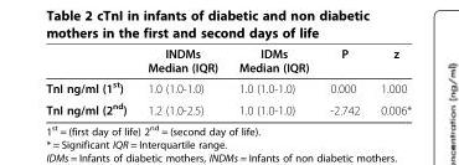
<table><thead><tr><td></td><td>INDMs Median (IQR)</td><td>IDMs Median (IQR)</td><td>P</td><td>z</td></tr></thead><tbody><tr><td>TnI ng/ml (1<sup>st</sup>)</td><td>1.0 (1.0-1.0)</td><td>1.0 (1.0-1.0)</td><td>0.000</td><td>1.000</td></tr><tr><td>TnI ng/ml (2<sup>nd</sup>)</td><td>1.2 (1.0-2.5)</td><td>1.0 (1.0-1.0)</td><td>-2.742</td><td>0.006*</td></tr></tbody></table>